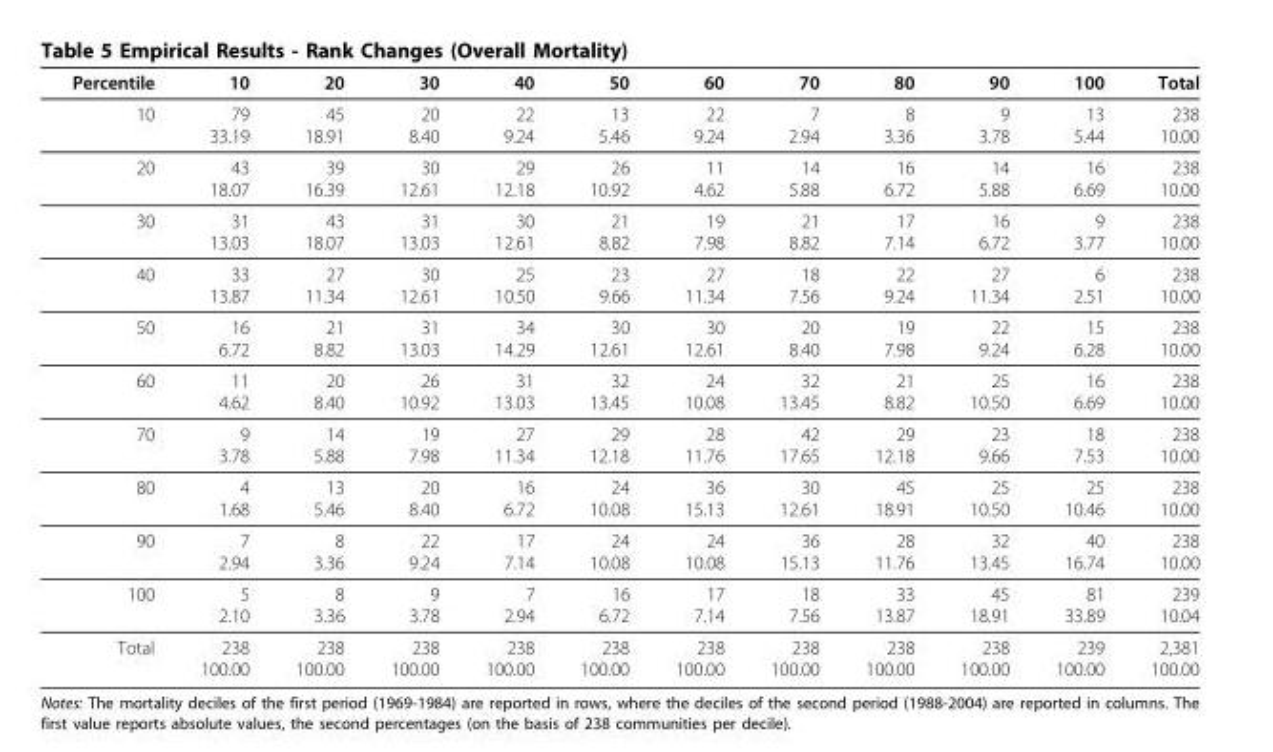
<table><thead><tr><td>Percentile</td><td>10</td><td>20</td><td>30</td><td>40</td><td>50</td><td>60</td><td>70</td><td>80</td><td>90</td><td>100</td><td>Total</td></tr></thead><tbody><tr><td>10</td><td>79 33.19</td><td>45 18.91</td><td>20 8.40</td><td>22 9.24</td><td>13 5.46</td><td>22 9.24</td><td>7 2.94</td><td>8 3.36</td><td>9 3.78</td><td>13 5.44</td><td>238 10.00</td></tr><tr><td>20</td><td>43 18.07</td><td>39 16.39</td><td>30 12.61</td><td>29 12.18</td><td>26 10.92</td><td>11 4.62</td><td>14 5.88</td><td>16 6.72</td><td>14 5.88</td><td>16 6.69</td><td>238 10.00</td></tr><tr><td>30</td><td>31 13.03</td><td>43 18.07</td><td>31 13.03</td><td>30 12.61</td><td>21 8.82</td><td>19 7.98</td><td>21 8.82</td><td>17 7.14</td><td>16 6.72</td><td>9 3.77</td><td>238 10.00</td></tr><tr><td>40</td><td>33 13.87</td><td>27 11.34</td><td>30 12.61</td><td>25 10.50</td><td>23 9.66</td><td>27 11.34</td><td>18 7.56</td><td>22 9.24</td><td>27 11.34</td><td>6 2.51</td><td>238 10.00</td></tr><tr><td>50</td><td>16 6.72</td><td>21 8.82</td><td>31 13.03</td><td>34 14.29</td><td>30 12.61</td><td>30 12.61</td><td>20 8.40</td><td>19 7.98</td><td>22 9.24</td><td>15 6.28</td><td>238 10.00</td></tr><tr><td>60</td><td>11 4.62</td><td>20 8.40</td><td>26 10.92</td><td>31 13.03</td><td>32 13.45</td><td>24 10.08</td><td>32 13.45</td><td>21 8.82</td><td>25 10.50</td><td>16 6.69</td><td>238 10.00</td></tr><tr><td>70</td><td>9 3.78</td><td>14 5.88</td><td>19 7.98</td><td>27 11.34</td><td>29 12.18</td><td>28 11.76</td><td>42 17.65</td><td>29 12.18</td><td>23 9.66</td><td>18 7.53</td><td>238 10.00</td></tr><tr><td>80</td><td>4 1.68</td><td>13 5.46</td><td>20 8.40</td><td>16 6.72</td><td>24 10.08</td><td>36 15.13</td><td>30 12.61</td><td>45 18.91</td><td>25 10.50</td><td>25 10.46</td><td>238 10.00</td></tr><tr><td>90</td><td>7 2.94</td><td>8 3.36</td><td>22 9.24</td><td>17 7.14</td><td>24 10.08</td><td>24 10.08</td><td>36 15.13</td><td>28 11.76</td><td>32 13.45</td><td>40 16.74</td><td>238 10.00</td></tr><tr><td>100</td><td>5 2.10</td><td>8 3.36</td><td>9 3.78</td><td>7 2.94</td><td>16 6.72</td><td>17 7.14</td><td>18 7.56</td><td>33 13.87</td><td>45 18.91</td><td>81 33.89</td><td>239 10.04</td></tr><tr><td>Total</td><td>238 100.00</td><td>238 100.00</td><td>238 100.00</td><td>238 100.00</td><td>238 100.00</td><td>238 100.00</td><td>238 100.00</td><td>238 100.00</td><td>238 100.00</td><td>239 100.00</td><td>2,381 100.00</td></tr></tbody></table>